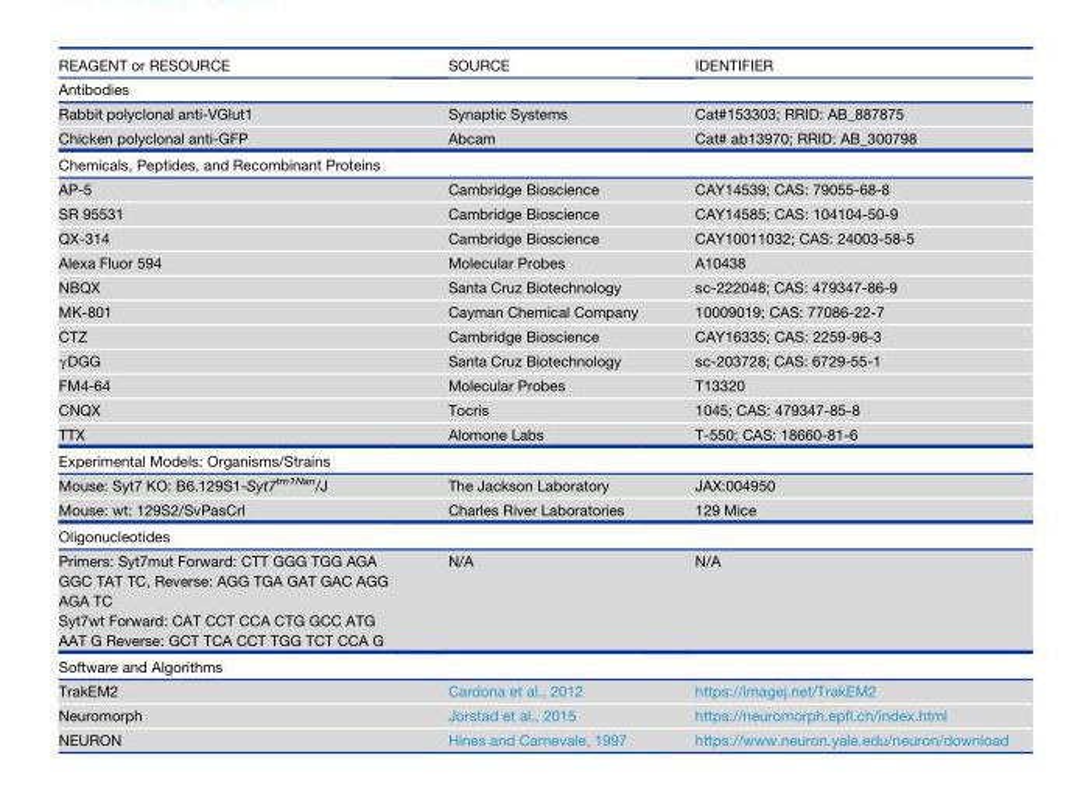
<table><thead><tr><td>REAGENT or RESOURCE</td><td>SOURCE</td><td>IDENTIFIER</td></tr></thead><tbody><tr><td colspan="3">Antibodies</td></tr><tr><td>Rabbit polyclonal anti-VGlut1</td><td>Synaptic Systems</td><td>Cat#153303; RRID: AB_887875</td></tr><tr><td>Chicken polyclonal anti-GFP</td><td>Abcam</td><td>Cat# ab13970; RRID: AB_300798</td></tr><tr><td colspan="3">Chemicals, Peptides, and Recombinant Proteins</td></tr><tr><td>AP-5</td><td>Cambridge Bioscience</td><td>CAY14539; CAS: 79055-68-8</td></tr><tr><td>SR 95531</td><td>Cambridge Bioscience</td><td>CAY14585; CAS: 104104-50-9</td></tr><tr><td>QX-314</td><td>Cambridge Bioscience</td><td>CAY10011032; CAS: 24003-58-5</td></tr><tr><td>Alexa Fluor 594</td><td>Molecular Probes</td><td>A10438</td></tr><tr><td>NBQX</td><td>Santa Cruz Biotechnology</td><td>sc-222048; CAS: 479347-86-9</td></tr><tr><td>MK-801</td><td>Cayman Chemical Company</td><td>10009019; CAS: 77086-22-7</td></tr><tr><td>CTZ</td><td>Cambridge Bioscience</td><td>CAY16335; CAS: 2259-96-3</td></tr><tr><td>γDGG</td><td>Santa Cruz Biotechnology</td><td>sc-203728; CAS: 6729-55-1</td></tr><tr><td>FM4-64</td><td>Molecular Probes</td><td>T13320</td></tr><tr><td>CNQX</td><td>Tocris</td><td>1045; CAS: 479347-85-8</td></tr><tr><td>TTX</td><td>Alomone Labs</td><td>T-550; CAS: 18660-81-6</td></tr><tr><td colspan="3">Experimental Models: Organisms/Strains</td></tr><tr><td>Mouse: Syt7 KO: B6.129S1-Syt7<sup>tm1Nan</sup>/J</td><td>The Jackson Laboratory</td><td>JAX:004950</td></tr><tr><td>Mouse: wt: 129S2/SvPasCrl</td><td>Charles River Laboratories</td><td>129 Mice</td></tr><tr><td colspan="3">Oligonucleotides</td></tr><tr><td>Primers: Syt7mut Forward: CTT GGG TGG AGA GGC TAT TC, Reverse: AGG TGA GAT GAC AGG AGA TC Syt7wt Forward: CAT CCT CCA CTG GCC ATG AAT G Reverse: GCT TCA CCT TGG TCT CCA G</td><td>N/A</td><td>N/A</td></tr><tr><td colspan="3">Software and Algorithms</td></tr><tr><td>TrakEM2</td><td>Cardona et al., 2012</td><td>https://imagej.net/TrakEM2</td></tr><tr><td>Neuromorph</td><td>Jorstad et al., 2015</td><td>https://neuromorph.epfl.ch/index.html</td></tr><tr><td>NEURON</td><td>Hines and Carnevale, 1997</td><td>https://www.neuron.yale.edu/neuron/download</td></tr></tbody></table>